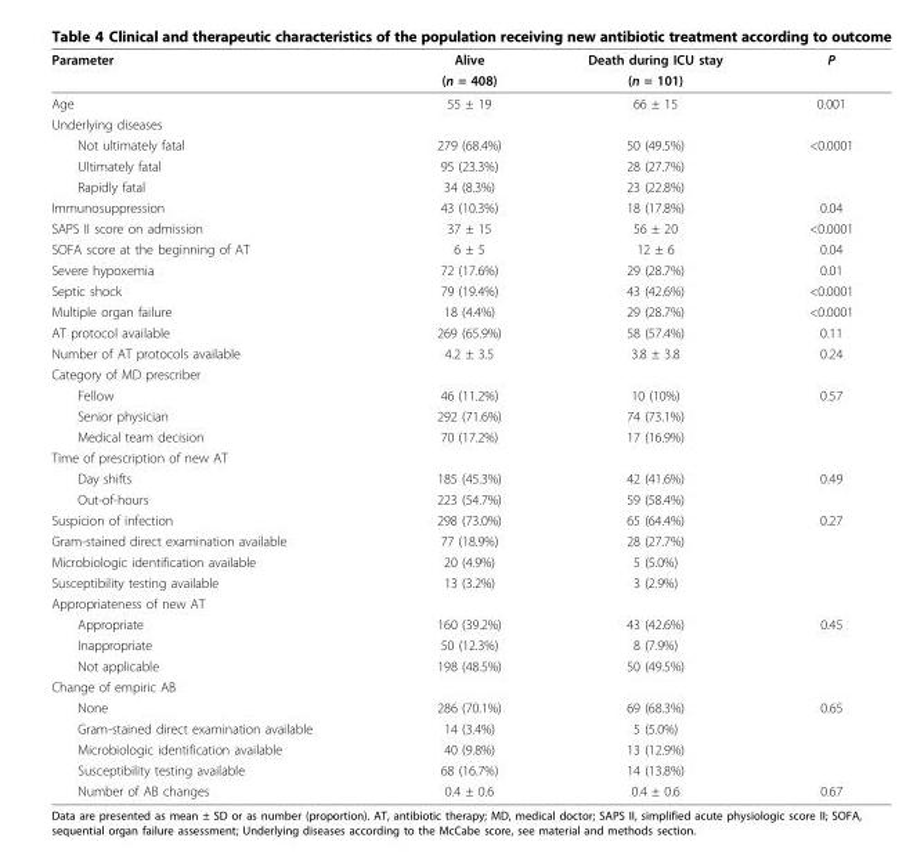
<table><thead><tr><td rowspan="2">Parameter</td><td rowspan="2">Alive (n = 408)</td><td rowspan="2">Death during ICU stay (n = 101)</td><td rowspan="2">P</td></tr><tr></tr></thead><tbody><tr><td>Age</td><td>55 ± 19</td><td>66 ± 15</td><td>0.001</td></tr><tr><td colspan="4">Underlying diseases</td></tr><tr><td>Not ultimately fatal</td><td>279 (68.4%)</td><td>50 (49.5%)</td><td>&lt;0.0001</td></tr><tr><td>Ultimately fatal</td><td>95 (23.3%)</td><td>28 (27.7%)</td><td></td></tr><tr><td>Rapidly fatal</td><td>34 (8.3%)</td><td>23 (22.8%)</td><td></td></tr><tr><td>Immunosuppression</td><td>43 (10.3%)</td><td>18 (17.8%)</td><td>0.04</td></tr><tr><td>SAPS II score on admission</td><td>37 ± 15</td><td>56 ± 20</td><td>&lt;0.0001</td></tr><tr><td>SOFA score at the beginning of AT</td><td>6 ± 5</td><td>12 ± 6</td><td>0.04</td></tr><tr><td>Severe hypoxemia</td><td>72 (17.6%)</td><td>29 (28.7%)</td><td>0.01</td></tr><tr><td>Septic shock</td><td>79 (19.4%)</td><td>43 (42.6%)</td><td>&lt;0.0001</td></tr><tr><td>Multiple organ failure</td><td>18 (4.4%)</td><td>29 (28.7%)</td><td>&lt;0.0001</td></tr><tr><td>AT protocol available</td><td>269 (65.9%)</td><td>58 (57.4%)</td><td>0.11</td></tr><tr><td>Number of AT protocols available</td><td>4.2 ± 3.5</td><td>3.8 ± 3.8</td><td>0.24</td></tr><tr><td colspan="4">Category of MD prescriber</td></tr><tr><td>Fellow</td><td>46 (11.2%)</td><td>10 (10%)</td><td>0.57</td></tr><tr><td>Senior physician</td><td>292 (71.6%)</td><td>74 (73.1%)</td><td></td></tr><tr><td>Medical team decision</td><td>70 (17.2%)</td><td>17 (16.9%)</td><td></td></tr><tr><td colspan="4">Time of prescription of new AT</td></tr><tr><td>Day shifts</td><td>185 (45.3%)</td><td>42 (41.6%)</td><td>0.49</td></tr><tr><td>Out-of-hours</td><td>223 (54.7%)</td><td>59 (58.4%)</td><td></td></tr><tr><td>Suspicion of infection</td><td>298 (73.0%)</td><td>65 (64.4%)</td><td>0.27</td></tr><tr><td>Gram-stained direct examination available</td><td>77 (18.9%)</td><td>28 (27.7%)</td><td></td></tr><tr><td>Microbiologic identification available</td><td>20 (4.9%)</td><td>5 (5.0%)</td><td></td></tr><tr><td>Susceptibility testing available</td><td>13 (3.2%)</td><td>3 (2.9%)</td><td></td></tr><tr><td colspan="4">Appropriateness of new AT</td></tr><tr><td>Appropriate</td><td>160 (39.2%)</td><td>43 (42.6%)</td><td>0.45</td></tr><tr><td>Inappropriate</td><td>50 (12.3%)</td><td>8 (7.9%)</td><td></td></tr><tr><td>Not applicable</td><td>198 (48.5%)</td><td>50 (49.5%)</td><td></td></tr><tr><td colspan="4">Change of empiric AB</td></tr><tr><td>None</td><td>286 (70.1%)</td><td>69 (68.3%)</td><td>0.65</td></tr><tr><td>Gram-stained direct examination available</td><td>14 (3.4%)</td><td>5 (5.0%)</td><td></td></tr><tr><td>Microbiologic identification available</td><td>40 (9.8%)</td><td>13 (12.9%)</td><td></td></tr><tr><td>Susceptibility testing available</td><td>68 (16.7%)</td><td>14 (13.8%)</td><td></td></tr><tr><td>Number of AB changes</td><td>0.4 ± 0.6</td><td>0.4 ± 0.6</td><td>0.67</td></tr></tbody></table>